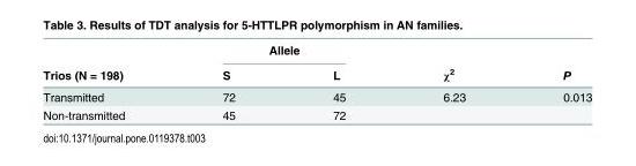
<table><thead><tr><td rowspan="2">Trios (N = 198)</td><td colspan="2">Allele</td><td rowspan="2">χ<sup>2</sup></td><td rowspan="2">P</td></tr><tr><td>S</td><td>L</td></tr></thead><tbody><tr><td>Transmitted</td><td>72</td><td>45</td><td>6.23</td><td>0.013</td></tr><tr><td>Non-transmitted</td><td>45</td><td>72</td><td></td><td></td></tr></tbody></table>